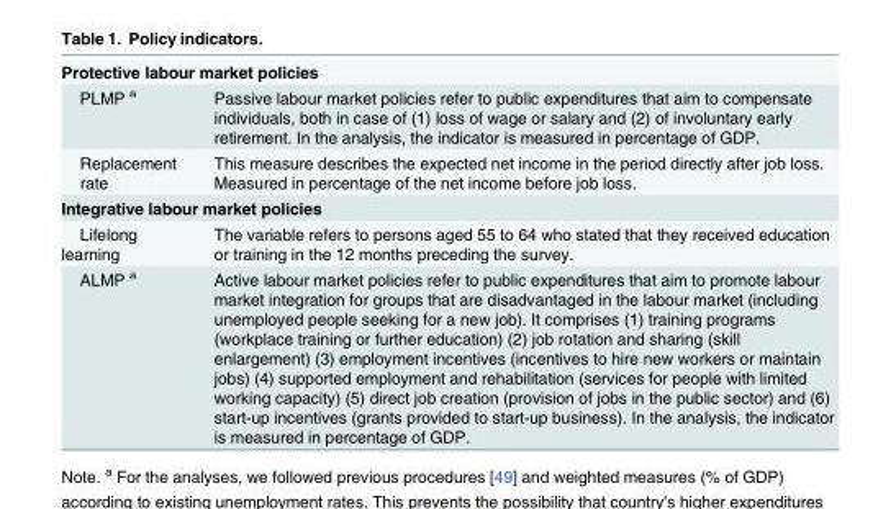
<table><tbody><tr><td colspan="2">Protective labour market policies</td></tr><tr><td>PLMP <sup>a</sup></td><td>Passive labour market policies refer to public expenditures that aim to compensate individuals, both in case of (1) loss of wage or salary and (2) of involuntary early retirement. In the analysis, the indicator is measured in percentage of GDP.</td></tr><tr><td>Replacement rate</td><td>This measure describes the expected net income in the period directly after job loss. Measured in percentage of the net income before job loss.</td></tr><tr><td colspan="2">Integrative labour market policies</td></tr><tr><td>Lifelong learning</td><td>The variable refers to persons aged 55 to 64 who stated that they received education or training in the 12 months preceding the survey.</td></tr><tr><td>ALMP <sup>a</sup></td><td>Active labour market policies refer to public expenditures that aim to promote labour market integration for groups that are disadvantaged in the labour market (including unemployed people seeking for a new job). It comprises (1) training programs (workplace training or further education) (2) job rotation and sharing (skill enlargement) (3) employment incentives (incentives to hire new workers or maintain jobs) (4) supported employment and rehabilitation (services for people with limited working capacity) (5) direct job creation (provision of jobs in the public sector) and (6) start-up incentives (grants provided to start-up business). In the analysis, the indicator is measured in percentage of GDP.</td></tr></tbody></table>